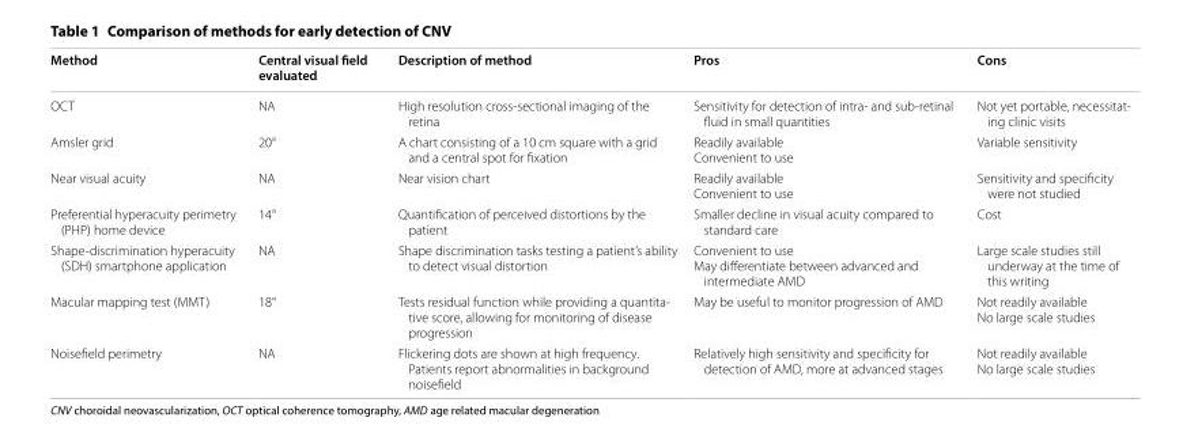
<table><thead><tr><td>Method</td><td>Central visual field evaluated</td><td>Description of method</td><td>Pros</td><td>Cons</td></tr></thead><tbody><tr><td>OCT</td><td>NA</td><td>High resolution cross‑sectional imaging of the retina</td><td>Sensitivity for detection of intra‑ and sub‑retinal fluid in small quantities</td><td>Not yet portable, necessitat‑ ing clinic visits</td></tr><tr><td>Amsler grid</td><td>20°</td><td>A chart consisting of a 10 cm square with a grid and a central spot for fixation</td><td>Readily available Convenient to use</td><td>Variable sensitivity</td></tr><tr><td>Near visual acuity</td><td>NA</td><td>Near vision chart</td><td>Readily available Convenient to use</td><td>Sensitivity and specificity were not studied</td></tr><tr><td>Preferential hyperacuity perimetry (PHP) home device</td><td>14°</td><td>Quantification of perceived distortions by the patient</td><td>Smaller decline in visual acuity compared to standard care</td><td>Cost</td></tr><tr><td>Shape‑discrimination hyperacuity (SDH) smartphone application</td><td>NA</td><td>Shape discrimination tasks testing a patient’s ability to detect visual distortion</td><td>Convenient to use May differentiate between advanced and intermediate AMD</td><td>Large scale studies still underway at the time of this writing</td></tr><tr><td>Macular mapping test (MMT)</td><td>18°</td><td>Tests residual function while providing a quantita‑ tive score, allowing for monitoring of disease progression</td><td>May be useful to monitor progression of AMD</td><td>Not readily available No large scale studies</td></tr><tr><td>Noisefield perimetry</td><td>NA</td><td>Flickering dots are shown at high frequency. Patients report abnormalities in background noisefield</td><td>Relatively high sensitivity and specificity for detection of AMD, more at advanced stages</td><td>Not readily available No large scale studies</td></tr></tbody></table>